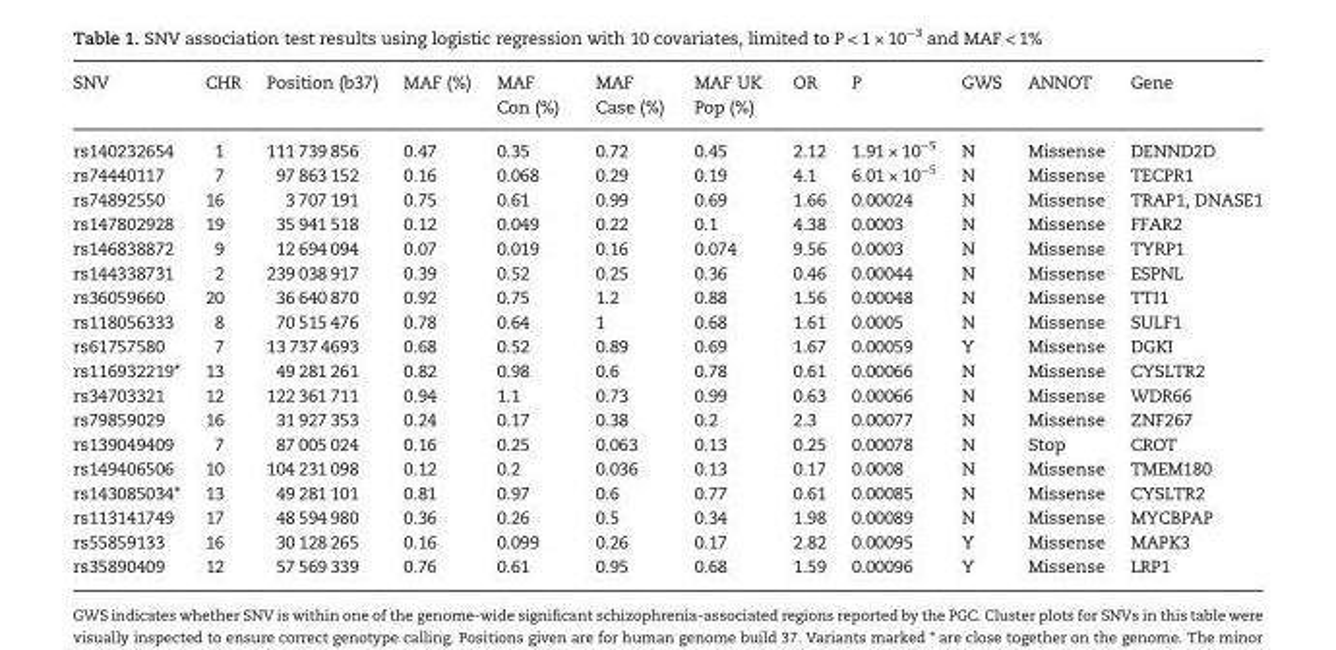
<table><thead><tr><td>SNV</td><td>CHR</td><td>Position (b37)</td><td>MAF (%)</td><td>MAF Con (%)</td><td>MAF Case (%)</td><td>MAF UK Pop (%)</td><td>OR</td><td>P</td><td>GWS</td><td>ANNOT</td><td>Gene</td></tr></thead><tbody><tr><td>rs140232654</td><td>1</td><td>111 739 856</td><td>0.47</td><td>0.35</td><td>0.72</td><td>0.45</td><td>2.12</td><td>1.91 × 10<sup>−5</sup></td><td>N</td><td>Missense</td><td>DENND2D</td></tr><tr><td>rs74440117</td><td>7</td><td>97 863 152</td><td>0.16</td><td>0.068</td><td>0.29</td><td>0.19</td><td>4.1</td><td>6.01 × 10<sup>−5</sup></td><td>N</td><td>Missense</td><td>TECPR1</td></tr><tr><td>rs74892550</td><td>16</td><td>3 707 191</td><td>0.75</td><td>0.61</td><td>0.99</td><td>0.69</td><td>1.66</td><td>0.00024</td><td>N</td><td>Missense</td><td>TRAP1, DNASE1</td></tr><tr><td>rs147802928</td><td>19</td><td>35 941 518</td><td>0.12</td><td>0.049</td><td>0.22</td><td>0.1</td><td>4.38</td><td>0.0003</td><td>N</td><td>Missense</td><td>FFAR2</td></tr><tr><td>rs146838872</td><td>9</td><td>12 694 094</td><td>0.07</td><td>0.019</td><td>0.16</td><td>0.074</td><td>9.56</td><td>0.0003</td><td>N</td><td>Missense</td><td>TYRP1</td></tr><tr><td>rs144338731</td><td>2</td><td>239 038 917</td><td>0.39</td><td>0.52</td><td>0.25</td><td>0.36</td><td>0.46</td><td>0.00044</td><td>N</td><td>Missense</td><td>ESPNL</td></tr><tr><td>rs36059660</td><td>20</td><td>36 640 870</td><td>0.92</td><td>0.75</td><td>1.2</td><td>0.88</td><td>1.56</td><td>0.00048</td><td>N</td><td>Missense</td><td>TTI1</td></tr><tr><td>rs118056333</td><td>8</td><td>70 515 476</td><td>0.78</td><td>0.64</td><td>1</td><td>0.68</td><td>1.61</td><td>0.0005</td><td>N</td><td>Missense</td><td>SULF1</td></tr><tr><td>rs61757580</td><td>7</td><td>13 737 4693</td><td>0.68</td><td>0.52</td><td>0.89</td><td>0.69</td><td>1.67</td><td>0.00059</td><td>Y</td><td>Missense</td><td>DGKI</td></tr><tr><td>rs116932219*</td><td>13</td><td>49 281 261</td><td>0.82</td><td>0.98</td><td>0.6</td><td>0.78</td><td>0.61</td><td>0.00066</td><td>N</td><td>Missense</td><td>CYSLTR2</td></tr><tr><td>rs34703321</td><td>12</td><td>122 361 711</td><td>0.94</td><td>1.1</td><td>0.73</td><td>0.99</td><td>0.63</td><td>0.00066</td><td>N</td><td>Missense</td><td>WDR66</td></tr><tr><td>rs79859029</td><td>16</td><td>31 927 353</td><td>0.24</td><td>0.17</td><td>0.38</td><td>0.2</td><td>2.3</td><td>0.00077</td><td>N</td><td>Missense</td><td>ZNF267</td></tr><tr><td>rs139049409</td><td>7</td><td>87 005 024</td><td>0.16</td><td>0.25</td><td>0.063</td><td>0.13</td><td>0.25</td><td>0.00078</td><td>N</td><td>Stop</td><td>CROT</td></tr><tr><td>rs149406506</td><td>10</td><td>104 231 098</td><td>0.12</td><td>0.2</td><td>0.036</td><td>0.13</td><td>0.17</td><td>0.0008</td><td>N</td><td>Missense</td><td>TMEM180</td></tr><tr><td>rs143085034*</td><td>13</td><td>49 281 101</td><td>0.81</td><td>0.97</td><td>0.6</td><td>0.77</td><td>0.61</td><td>0.00085</td><td>N</td><td>Missense</td><td>CYSLTR2</td></tr><tr><td>rs113141749</td><td>17</td><td>48 594 980</td><td>0.36</td><td>0.26</td><td>0.5</td><td>0.34</td><td>1.98</td><td>0.00089</td><td>N</td><td>Missense</td><td>MYCBPAP</td></tr><tr><td>rs55859133</td><td>16</td><td>30 128 265</td><td>0.16</td><td>0.099</td><td>0.26</td><td>0.17</td><td>2.82</td><td>0.00095</td><td>Y</td><td>Missense</td><td>MAPK3</td></tr><tr><td>rs35890409</td><td>12</td><td>57 569 339</td><td>0.76</td><td>0.61</td><td>0.95</td><td>0.68</td><td>1.59</td><td>0.00096</td><td>Y</td><td>Missense</td><td>LRP1</td></tr></tbody></table>